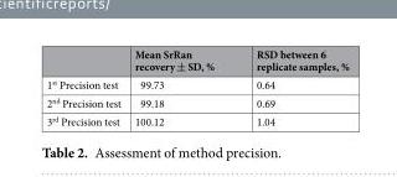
<table><thead><tr><td></td><td>Mean SrRan recovery ± SD, %</td><td>RSD between 6 replicate samples, %</td></tr></thead><tbody><tr><td>1<sup>st</sup> Precision test</td><td>99.73</td><td>0.64</td></tr><tr><td>2<sup>nd</sup> Precision test</td><td>99.18</td><td>0.69</td></tr><tr><td>3<sup>rd</sup> Precision test</td><td>100.12</td><td>1.04</td></tr></tbody></table>